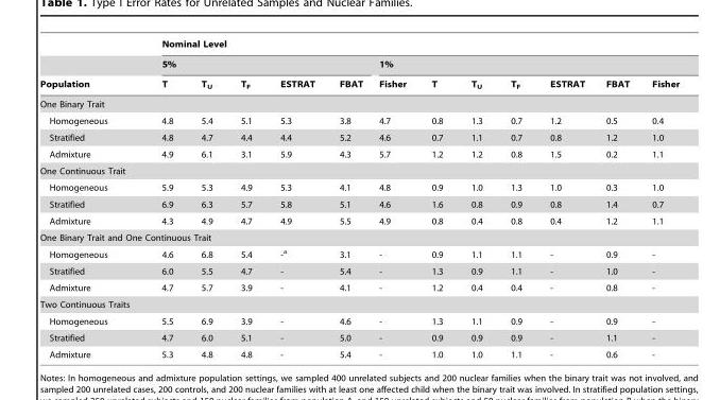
<table><thead><tr><td rowspan="3">Population</td><td colspan="12">Nominal Level</td></tr><tr><td colspan="5">5%</td><td colspan="7">1%</td></tr><tr><td>T</td><td>T<sub>U</sub></td><td>T<sub>F</sub></td><td>ESTRAT</td><td>FBAT</td><td>Fisher</td><td>T</td><td>T<sub>U</sub></td><td>T<sub>F</sub></td><td>ESTRAT</td><td>FBAT</td><td>Fisher</td></tr></thead><tbody><tr><td colspan="13">One Binary Trait</td></tr><tr><td>Homogeneous</td><td>4.8</td><td>5.4</td><td>5.1</td><td>5.3</td><td>3.8</td><td>4.7</td><td>0.8</td><td>1.3</td><td>0.7</td><td>1.2</td><td>0.5</td><td>0.4</td></tr><tr><td>Stratified</td><td>4.8</td><td>4.7</td><td>4.4</td><td>4.4</td><td>5.2</td><td>4.6</td><td>0.7</td><td>1.1</td><td>0.7</td><td>0.8</td><td>1.2</td><td>1.0</td></tr><tr><td>Admixture</td><td>4.9</td><td>6.1</td><td>3.1</td><td>5.9</td><td>4.3</td><td>5.7</td><td>1.2</td><td>1.2</td><td>0.8</td><td>1.5</td><td>0.2</td><td>1.1</td></tr><tr><td colspan="13">One Continuous Trait</td></tr><tr><td>Homogeneous</td><td>5.9</td><td>5.3</td><td>4.9</td><td>5.3</td><td>4.1</td><td>4.8</td><td>0.9</td><td>1.0</td><td>1.3</td><td>1.0</td><td>0.3</td><td>1.0</td></tr><tr><td>Stratified</td><td>6.9</td><td>6.3</td><td>5.7</td><td>5.8</td><td>5.1</td><td>4.6</td><td>1.6</td><td>0.8</td><td>0.9</td><td>0.8</td><td>1.4</td><td>0.7</td></tr><tr><td>Admixture</td><td>4.3</td><td>4.9</td><td>4.7</td><td>4.9</td><td>5.5</td><td>4.9</td><td>0.8</td><td>0.4</td><td>0.8</td><td>0.4</td><td>1.2</td><td>1.1</td></tr><tr><td colspan="13">One Binary Trait and One Continuous Trait</td></tr><tr><td>Homogeneous</td><td>4.6</td><td>6.8</td><td>5.4</td><td>-<sup>a</sup></td><td>3.1</td><td>-</td><td>0.9</td><td>1.1</td><td>1.1</td><td>-</td><td>0.9</td><td>-</td></tr><tr><td>Stratified</td><td>6.0</td><td>5.5</td><td>4.7</td><td>-</td><td>5.4</td><td>-</td><td>1.3</td><td>0.9</td><td>1.1</td><td>-</td><td>1.0</td><td>-</td></tr><tr><td>Admixture</td><td>4.7</td><td>5.7</td><td>3.9</td><td>-</td><td>4.1</td><td>-</td><td>1.2</td><td>0.4</td><td>0.4</td><td>-</td><td>0.8</td><td>-</td></tr><tr><td colspan="13">Two Continuous Traits</td></tr><tr><td>Homogeneous</td><td>5.5</td><td>6.9</td><td>3.9</td><td>-</td><td>4.6</td><td>-</td><td>1.3</td><td>1.1</td><td>0.9</td><td>-</td><td>0.9</td><td>-</td></tr><tr><td>Stratified</td><td>4.7</td><td>6.0</td><td>5.1</td><td>-</td><td>5.0</td><td>-</td><td>0.9</td><td>0.9</td><td>0.9</td><td>-</td><td>1.1</td><td>-</td></tr><tr><td>Admixture</td><td>5.3</td><td>4.8</td><td>4.8</td><td>-</td><td>5.4</td><td>-</td><td>1.0</td><td>1.0</td><td>1.1</td><td>-</td><td>0.6</td><td>-</td></tr></tbody></table>